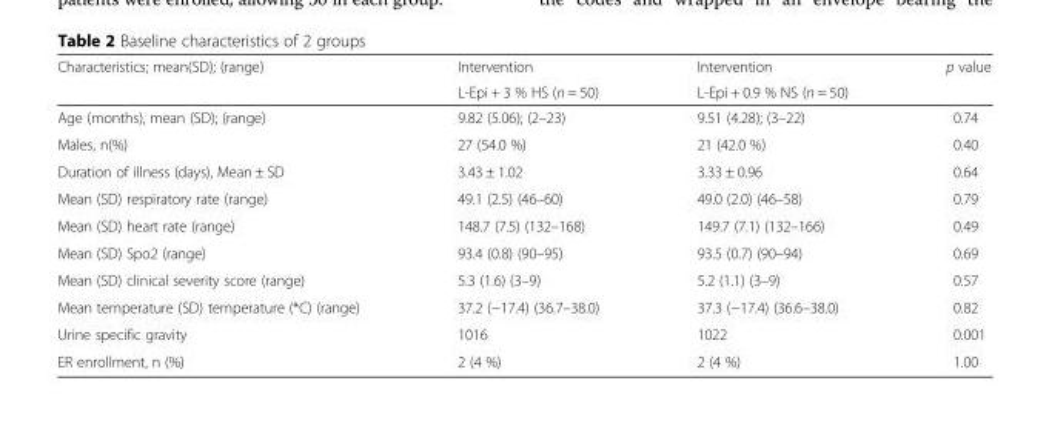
<table><thead><tr><td rowspan="2">Characteristics; mean(SD); (range)</td><td rowspan="2">Intervention L-Epi + 3 % HS (n = 50)</td><td rowspan="2">Intervention L-Epi + 0.9 % NS (n = 50)</td><td rowspan="2">p value</td></tr><tr></tr></thead><tbody><tr><td>Age (months), mean (SD); (range)</td><td>9.82 (5.06); (2–23)</td><td>9.51 (4.28); (3–22)</td><td>0.74</td></tr><tr><td>Males, n(%)</td><td>27 (54.0 %)</td><td>21 (42.0 %)</td><td>0.40</td></tr><tr><td>Duration of illness (days), Mean ± SD</td><td>3.43 ± 1.02</td><td>3.33 ± 0.96</td><td>0.64</td></tr><tr><td>Mean (SD) respiratory rate (range)</td><td>49.1 (2.5) (46–60)</td><td>49.0 (2.0) (46–58)</td><td>0.79</td></tr><tr><td>Mean (SD) heart rate (range)</td><td>148.7 (7.5) (132–168)</td><td>149.7 (7.1) (132–166)</td><td>0.49</td></tr><tr><td>Mean (SD) Spo2 (range)</td><td>93.4 (0.8) (90–95)</td><td>93.5 (0.7) (90–94)</td><td>0.69</td></tr><tr><td>Mean (SD) clinical severity score (range)</td><td>5.3 (1.6) (3–9)</td><td>5.2 (1.1) (3–9)</td><td>0.57</td></tr><tr><td>Mean temperature (SD) temperature (*C) (range)</td><td>37.2 (−17.4) (36.7–38.0)</td><td>37.3 (−17.4) (36.6–38.0)</td><td>0.82</td></tr><tr><td>Urine specific gravity</td><td>1016</td><td>1022</td><td>0.001</td></tr><tr><td>ER enrollment, n (%)</td><td>2 (4 %)</td><td>2 (4 %)</td><td>1.00</td></tr></tbody></table>